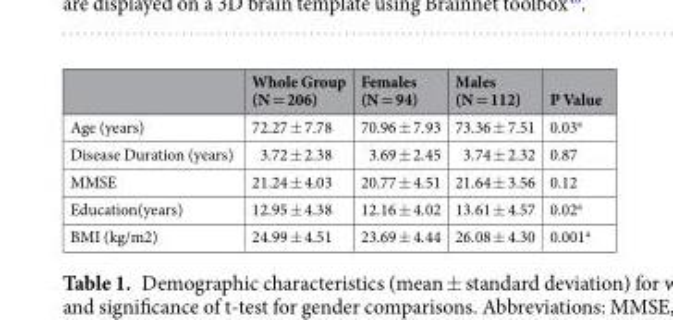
<table><thead><tr><td></td><td>Whole Group (N = 206)</td><td>Females (N = 94)</td><td>Males (N = 112)</td><td>P Value</td></tr></thead><tbody><tr><td>Age (years)</td><td>72.27 ± 7.78</td><td>70.96 ± 7.93</td><td>73.36 ± 7.51</td><td>0.03<sup>a</sup></td></tr><tr><td>Disease Duration (years)</td><td>3.72 ± 2.38</td><td>3.69 ± 2.45</td><td>3.74 ± 2.32</td><td>0.87</td></tr><tr><td>MMSE</td><td>21.24 ± 4.03</td><td>20.77 ± 4.51</td><td>21.64 ± 3.56</td><td>0.12</td></tr><tr><td>Education(years)</td><td>12.95 ± 4.38</td><td>12.16 ± 4.02</td><td>13.61 ± 4.57</td><td>0.02<sup>a</sup></td></tr><tr><td>BMI (kg/m2)</td><td>24.99 ± 4.51</td><td>23.69 ± 4.44</td><td>26.08 ± 4.30</td><td>0.001<sup>a</sup></td></tr></tbody></table>